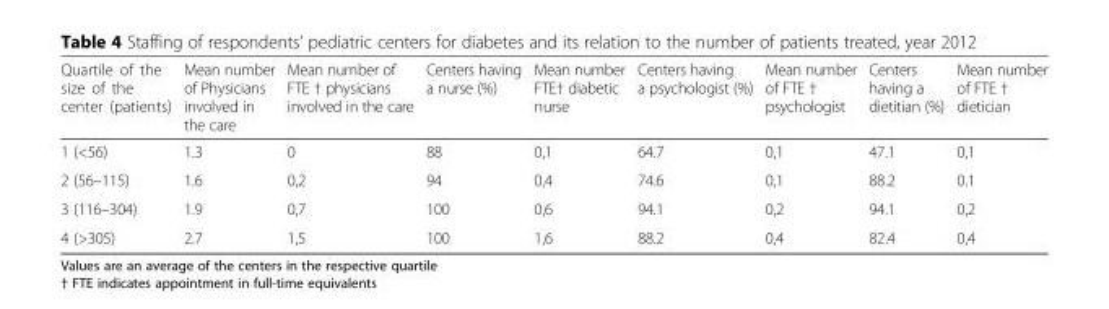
<table><thead><tr><td>Quartile of the size of the center (patients)</td><td>Mean number of Physicians involved in the care</td><td>Mean number of FTE † physicians involved in the care</td><td>Centers having a nurse (%)</td><td>Mean number FTE† diabetic nurse</td><td>Centers having a psychologist (%)</td><td>Mean number of FTE † psychologist</td><td>Centers having a dietitian (%)</td><td>Mean number of FTE † dietician</td></tr></thead><tbody><tr><td>1 (&lt;56)</td><td>1.3</td><td>0</td><td>88</td><td>0,1</td><td>64.7</td><td>0,1</td><td>47.1</td><td>0,1</td></tr><tr><td>2 (56–115)</td><td>1.6</td><td>0,2</td><td>94</td><td>0,4</td><td>74.6</td><td>0,1</td><td>88.2</td><td>0.1</td></tr><tr><td>3 (116–304)</td><td>1.9</td><td>0,7</td><td>100</td><td>0,6</td><td>94.1</td><td>0,2</td><td>94.1</td><td>0,2</td></tr><tr><td>4 (&gt;305)</td><td>2.7</td><td>1,5</td><td>100</td><td>1,6</td><td>88.2</td><td>0,4</td><td>82.4</td><td>0,4</td></tr></tbody></table>